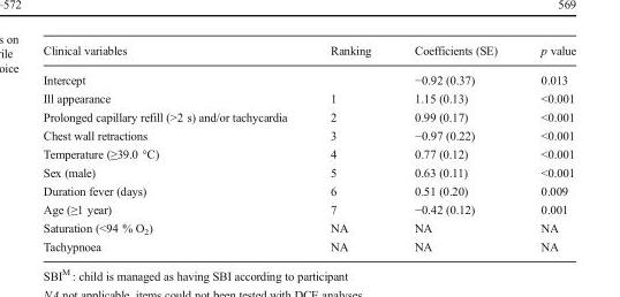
<table><thead><tr><td>Clinical variables</td><td>Ranking</td><td>Coefficients (SE)</td><td>p value</td></tr></thead><tbody><tr><td>Intercept</td><td></td><td>−0.92 (0.37)</td><td>0.013</td></tr><tr><td>Ill appearance</td><td>1</td><td>1.15 (0.13)</td><td>&lt;0.001</td></tr><tr><td>Prolonged capillary refill (&gt;2 s) and/or tachycardia</td><td>2</td><td>0.99 (0.17)</td><td>&lt;0.001</td></tr><tr><td>Chest wall retractions</td><td>3</td><td>−0.97 (0.22)</td><td>&lt;0.001</td></tr><tr><td>Temperature (≥39.0 °C)</td><td>4</td><td>0.77 (0.12)</td><td>&lt;0.001</td></tr><tr><td>Sex (male)</td><td>5</td><td>0.63 (0.11)</td><td>&lt;0.001</td></tr><tr><td>Duration fever (days)</td><td>6</td><td>0.51 (0.20)</td><td>0.009</td></tr><tr><td>Age (≥1 year)</td><td>7</td><td>−0.42 (0.12)</td><td>0.001</td></tr><tr><td>Saturation (&lt;94 % O<sub>2</sub>)</td><td>NA</td><td>NA</td><td>NA</td></tr><tr><td>Tachypnoea</td><td>NA</td><td>NA</td><td>NA</td></tr></tbody></table>